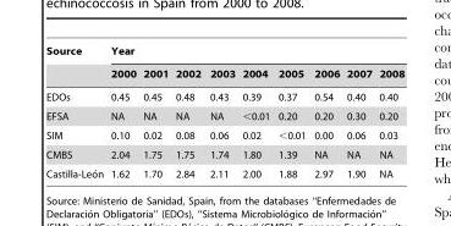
<table><thead><tr><td rowspan="2">Source</td><td colspan="9">Year</td></tr><tr><td>2000</td><td>2001</td><td>2002</td><td>2003</td><td>2004</td><td>2005</td><td>2006</td><td>2007</td><td>2008</td></tr></thead><tbody><tr><td>EDOs</td><td>0.45</td><td>0.45</td><td>0.48</td><td>0.43</td><td>0.39</td><td>0.37</td><td>0.54</td><td>0.40</td><td>0.40</td></tr><tr><td>EFSA</td><td>NA</td><td>NA</td><td>NA</td><td>NA</td><td>&lt;0.01</td><td>0.20</td><td>0.20</td><td>0.30</td><td>0.20</td></tr><tr><td>SIM</td><td>0.10</td><td>0.02</td><td>0.08</td><td>0.06</td><td>0.02</td><td>&lt;0.01</td><td>0.00</td><td>0.06</td><td>0.03</td></tr><tr><td>CMBS</td><td>2.04</td><td>1.75</td><td>1.75</td><td>1.74</td><td>1.80</td><td>1.39</td><td>NA</td><td>NA</td><td>NA</td></tr><tr><td>Castilla-Leo´n</td><td>1.62</td><td>1.70</td><td>2.84</td><td>2.11</td><td>2.00</td><td>1.88</td><td>2.97</td><td>1.90</td><td>NA</td></tr></tbody></table>